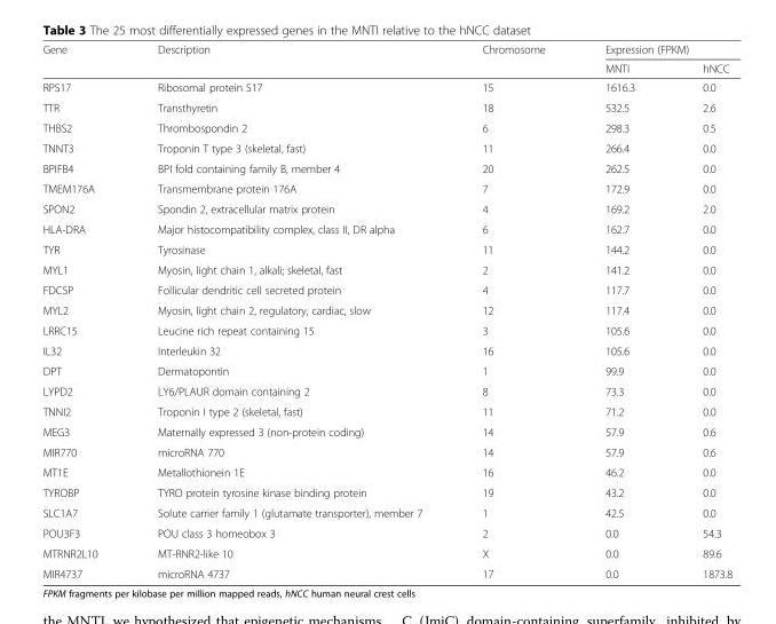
<table><thead><tr><td rowspan="2">Gene</td><td rowspan="2">Description</td><td rowspan="2">Chromosome</td><td colspan="2">Expression (FPKM)</td></tr><tr><td>MNTI</td><td>hNCC</td></tr></thead><tbody><tr><td>RPS17</td><td>Ribosomal protein S17</td><td>15</td><td>1616.3</td><td>0.0</td></tr><tr><td>TTR</td><td>Transthyretin</td><td>18</td><td>532.5</td><td>2.6</td></tr><tr><td>THBS2</td><td>Thrombospondin 2</td><td>6</td><td>298.3</td><td>0.5</td></tr><tr><td>TNNT3</td><td>Troponin T type 3 (skeletal, fast)</td><td>11</td><td>266.4</td><td>0.0</td></tr><tr><td>BPIFB4</td><td>BPI fold containing family B, member 4</td><td>20</td><td>262.5</td><td>0.0</td></tr><tr><td>TMEM176A</td><td>Transmembrane protein 176A</td><td>7</td><td>172.9</td><td>0.0</td></tr><tr><td>SPON2</td><td>Spondin 2, extracellular matrix protein</td><td>4</td><td>169.2</td><td>2.0</td></tr><tr><td>HLA-DRA</td><td>Major histocompatibility complex, class II, DR alpha</td><td>6</td><td>162.7</td><td>0.0</td></tr><tr><td>TYR</td><td>Tyrosinase</td><td>11</td><td>144.2</td><td>0.0</td></tr><tr><td>MYL1</td><td>Myosin, light chain 1, alkali; skeletal, fast</td><td>2</td><td>141.2</td><td>0.0</td></tr><tr><td>FDCSP</td><td>Follicular dendritic cell secreted protein</td><td>4</td><td>117.7</td><td>0.0</td></tr><tr><td>MYL2</td><td>Myosin, light chain 2, regulatory, cardiac, slow</td><td>12</td><td>117.4</td><td>0.0</td></tr><tr><td>LRRC15</td><td>Leucine rich repeat containing 15</td><td>3</td><td>105.6</td><td>0.0</td></tr><tr><td>IL32</td><td>Interleukin 32</td><td>16</td><td>105.6</td><td>0.0</td></tr><tr><td>DPT</td><td>Dermatopontin</td><td>1</td><td>99.9</td><td>0.0</td></tr><tr><td>LYPD2</td><td>LY6/PLAUR domain containing 2</td><td>8</td><td>73.3</td><td>0.0</td></tr><tr><td>TNNI2</td><td>Troponin I type 2 (skeletal, fast)</td><td>11</td><td>71.2</td><td>0.0</td></tr><tr><td>MEG3</td><td>Maternally expressed 3 (non-protein coding)</td><td>14</td><td>57.9</td><td>0.6</td></tr><tr><td>MIR770</td><td>microRNA 770</td><td>14</td><td>57.9</td><td>0.6</td></tr><tr><td>MT1E</td><td>Metallothionein 1E</td><td>16</td><td>46.2</td><td>0.0</td></tr><tr><td>TYROBP</td><td>TYRO protein tyrosine kinase binding protein</td><td>19</td><td>43.2</td><td>0.0</td></tr><tr><td>SLC1A7</td><td>Solute carrier family 1 (glutamate transporter), member 7</td><td>1</td><td>42.5</td><td>0.0</td></tr><tr><td>POU3F3</td><td>POU class 3 homeobox 3</td><td>2</td><td>0.0</td><td>54.3</td></tr><tr><td>MTRNR2L10</td><td>MT-RNR2-like 10</td><td>X</td><td>0.0</td><td>89.6</td></tr><tr><td>MIR4737</td><td>microRNA 4737</td><td>17</td><td>0.0</td><td>1873.8</td></tr></tbody></table>